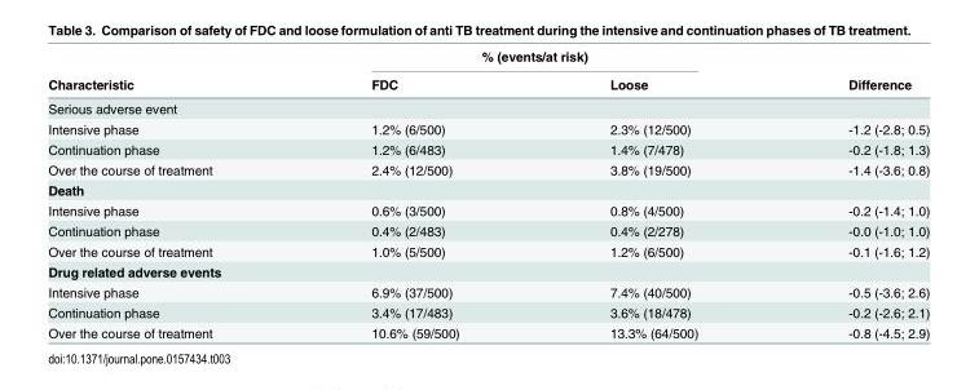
<table><thead><tr><td rowspan="2">Characteristic</td><td colspan="2">% (events/at risk)</td><td rowspan="2">Difference</td></tr><tr><td>FDC</td><td>Loose</td></tr></thead><tbody><tr><td colspan="4">Serious adverse event</td></tr><tr><td>Intensive phase</td><td>1.2% (6/500)</td><td>2.3% (12/500)</td><td>-1.2 (-2.8; 0.5)</td></tr><tr><td>Continuation phase</td><td>1.2% (6/483)</td><td>1.4% (7/478)</td><td>-0.2 (-1.8; 1.3)</td></tr><tr><td>Over the course of treatment</td><td>2.4% (12/500)</td><td>3.8% (19/500)</td><td>-1.4 (-3.6; 0.8)</td></tr><tr><td colspan="4">Death</td></tr><tr><td>Intensive phase</td><td>0.6% (3/500)</td><td>0.8% (4/500)</td><td>-0.2 (-1.4; 1.0)</td></tr><tr><td>Continuation phase</td><td>0.4% (2/483)</td><td>0.4% (2/278)</td><td>-0.0 (-1.0; 1.0)</td></tr><tr><td>Over the course of treatment</td><td>1.0% (5/500)</td><td>1.2% (6/500)</td><td>-0.1 (-1.6; 1.2)</td></tr><tr><td colspan="4">Drug related adverse events</td></tr><tr><td>Intensive phase</td><td>6.9% (37/500)</td><td>7.4% (40/500)</td><td>-0.5 (-3.6; 2.6)</td></tr><tr><td>Continuation phase</td><td>3.4% (17/483)</td><td>3.6% (18/478)</td><td>-0.2 (-2.6; 2.1)</td></tr><tr><td>Over the course of treatment</td><td>10.6% (59/500)</td><td>13.3% (64/500)</td><td>-0.8 (-4.5; 2.9)</td></tr></tbody></table>